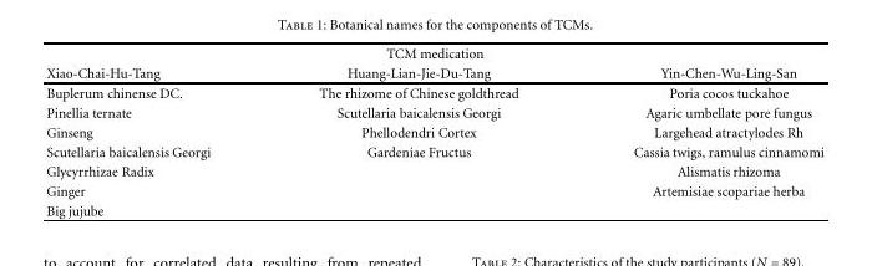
<table><thead><tr><td colspan="3">TCM medication</td></tr><tr><td>Xiao-Chai-Hu-Tang</td><td>Huang-Lian-Jie-Du-Tang</td><td>Yin-Chen-Wu-Ling-San</td></tr></thead><tbody><tr><td>Buplerum chinense DC.</td><td>The rhizome of Chinese goldthread</td><td>Poria cocos tuckahoe</td></tr><tr><td>Pinellia ternate</td><td>Scutellaria baicalensis Georgi</td><td>Agaric umbellate pore fungus</td></tr><tr><td>Ginseng</td><td>Phellodendri Cortex</td><td>Largehead atractylodes Rh</td></tr><tr><td>Scutellaria baicalensis Georgi</td><td>Gardeniae Fructus</td><td>Cassia twigs, ramulus cinnamomi</td></tr><tr><td>Glycyrrhizae Radix</td><td></td><td>Alismatis rhizoma</td></tr><tr><td>Ginger</td><td></td><td>Artemisiae scopariae herba</td></tr><tr><td>Big jujube</td><td></td><td></td></tr></tbody></table>